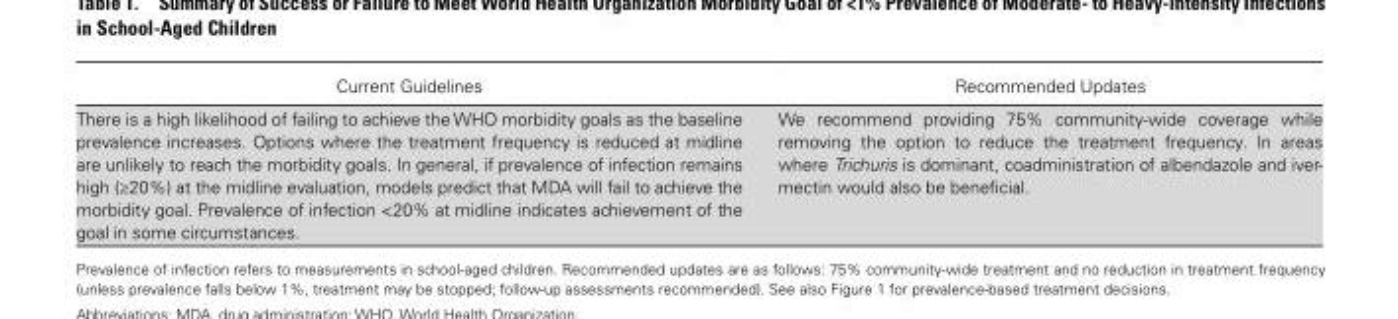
<table><thead><tr><td>Current Guidelines</td><td>Recommended Updates</td></tr></thead><tbody><tr><td>There is a high likelihood of failing to achieve the WHO morbidity goals as the baseline prevalence increases. Options where the treatment frequency is reduced at midline are unlikely to reach the morbidity goals. In general, if prevalence of infection remains high (≥20%) at the midline evaluation, models predict that MDA will fail to achieve the morbidity goal. Prevalence of infection &lt;20% at midline indicates achievement of the goal in some circumstances.</td><td>We recommend providing 75% community-wide coverage while removing the option to reduce the treatment frequency. In areas where Trichuris is dominant, coadministration of albendazole and iver- mectin would also be beneficial.</td></tr></tbody></table>